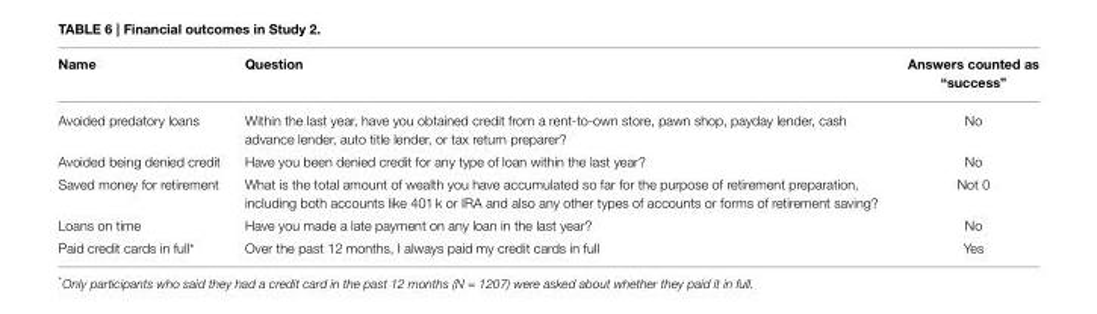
<table><thead><tr><td>Name</td><td>Question</td><td>Answers counted as “success”</td></tr></thead><tbody><tr><td>Avoided predatory loans</td><td>Within the last year, have you obtained credit from a rent-to-own store, pawn shop, payday lender, cash advance lender, auto title lender, or tax return preparer?</td><td>No</td></tr><tr><td>Avoided being denied credit</td><td>Have you been denied credit for any type of loan within the last year?</td><td>No</td></tr><tr><td>Saved money for retirement</td><td>What is the total amount of wealth you have accumulated so far for the purpose of retirement preparation, including both accounts like 401 k or IRA and also any other types of accounts or forms of retirement saving?</td><td>Not 0</td></tr><tr><td>Loans on time</td><td>Have you made a late payment on any loan in the last year?</td><td>No</td></tr><tr><td>Paid credit cards in full*</td><td>Over the past 12 months, I always paid my credit cards in full</td><td>Yes</td></tr></tbody></table>